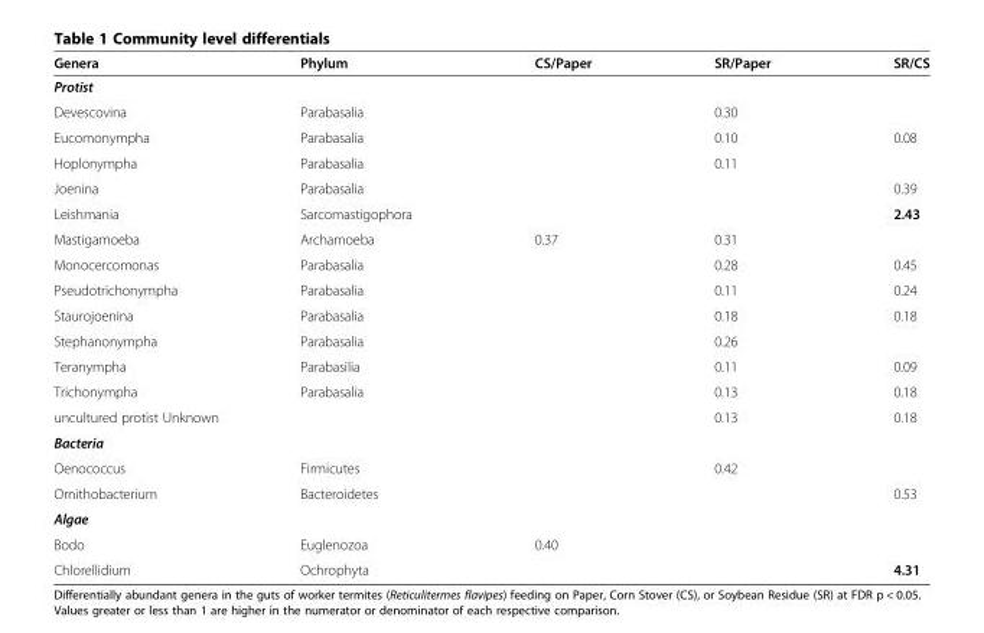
<table><thead><tr><td>Genera</td><td>Phylum</td><td>CS/Paper</td><td>SR/Paper</td><td>SR/CS</td></tr></thead><tbody><tr><td colspan="5">Protist</td></tr><tr><td>Devescovina</td><td>Parabasalia</td><td></td><td>0.30</td><td></td></tr><tr><td>Eucomonympha</td><td>Parabasalia</td><td></td><td>0.10</td><td>0.08</td></tr><tr><td>Hoplonympha</td><td>Parabasalia</td><td></td><td>0.11</td><td></td></tr><tr><td>Joenina</td><td>Parabasalia</td><td></td><td></td><td>0.39</td></tr><tr><td>Leishmania</td><td>Sarcomastigophora</td><td></td><td></td><td>2.43</td></tr><tr><td>Mastigamoeba</td><td>Archamoeba</td><td>0.37</td><td>0.31</td><td></td></tr><tr><td>Monocercomonas</td><td>Parabasalia</td><td></td><td>0.28</td><td>0.45</td></tr><tr><td>Pseudotrichonympha</td><td>Parabasalia</td><td></td><td>0.11</td><td>0.24</td></tr><tr><td>Staurojoenina</td><td>Parabasalia</td><td></td><td>0.18</td><td>0.18</td></tr><tr><td>Stephanonympha</td><td>Parabasalia</td><td></td><td>0.26</td><td></td></tr><tr><td>Teranympha</td><td>Parabasilia</td><td></td><td>0.11</td><td>0.09</td></tr><tr><td>Trichonympha</td><td>Parabasalia</td><td></td><td>0.13</td><td>0.18</td></tr><tr><td colspan="3">uncultured protist Unknown</td><td>0.13</td><td>0.18</td></tr><tr><td colspan="5">Bacteria</td></tr><tr><td>Oenococcus</td><td>Firmicutes</td><td></td><td>0.42</td><td></td></tr><tr><td>Ornithobacterium</td><td>Bacteroidetes</td><td></td><td></td><td>0.53</td></tr><tr><td colspan="5">Algae</td></tr><tr><td>Bodo</td><td>Euglenozoa</td><td>0.40</td><td></td><td></td></tr><tr><td>Chlorellidium</td><td>Ochrophyta</td><td></td><td></td><td>4.31</td></tr></tbody></table>